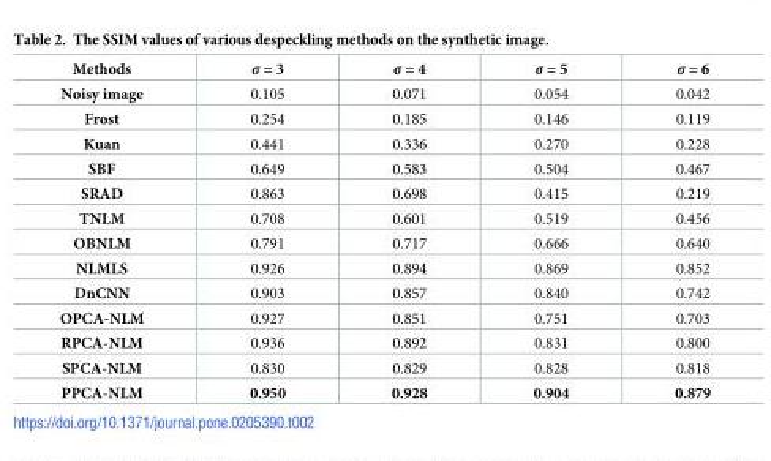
<table><thead><tr><td>Methods</td><td>σ = 3</td><td>σ = 4</td><td>σ = 5</td><td>σ = 6</td></tr></thead><tbody><tr><td>Noisy image</td><td>0.105</td><td>0.071</td><td>0.054</td><td>0.042</td></tr><tr><td>Frost</td><td>0.254</td><td>0.185</td><td>0.146</td><td>0.119</td></tr><tr><td>Kuan</td><td>0.441</td><td>0.336</td><td>0.270</td><td>0.228</td></tr><tr><td>SBF</td><td>0.649</td><td>0.583</td><td>0.504</td><td>0.467</td></tr><tr><td>SRAD</td><td>0.863</td><td>0.698</td><td>0.415</td><td>0.219</td></tr><tr><td>TNLM</td><td>0.708</td><td>0.601</td><td>0.519</td><td>0.456</td></tr><tr><td>OBNLM</td><td>0.791</td><td>0.717</td><td>0.666</td><td>0.640</td></tr><tr><td>NLMLS</td><td>0.926</td><td>0.894</td><td>0.869</td><td>0.852</td></tr><tr><td>DnCNN</td><td>0.903</td><td>0.857</td><td>0.840</td><td>0.742</td></tr><tr><td>OPCA-NLM</td><td>0.927</td><td>0.851</td><td>0.751</td><td>0.703</td></tr><tr><td>RPCA-NLM</td><td>0.936</td><td>0.892</td><td>0.831</td><td>0.800</td></tr><tr><td>SPCA-NLM</td><td>0.830</td><td>0.829</td><td>0.828</td><td>0.818</td></tr><tr><td>PPCA-NLM</td><td>0.950</td><td>0.928</td><td>0.904</td><td>0.879</td></tr></tbody></table>